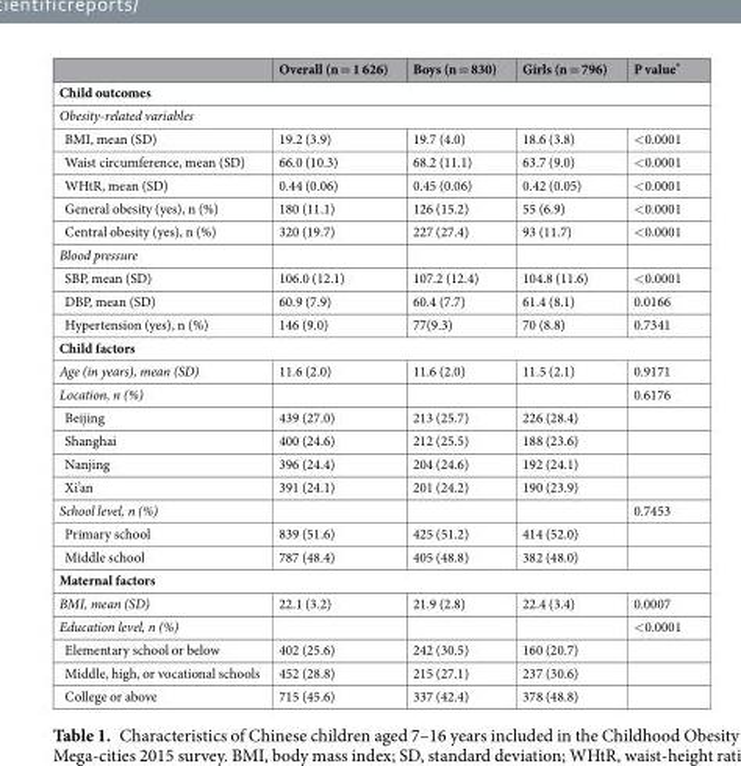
<table><thead><tr><td></td><td>Overall (n = 1 626)</td><td>Boys (n = 830)</td><td>Girls (n = 796)</td><td>P value*</td></tr></thead><tbody><tr><td colspan="5">Child outcomes</td></tr><tr><td colspan="5">Obesity-related variables</td></tr><tr><td>BMI, mean (SD)</td><td>19.2 (3.9)</td><td>19.7 (4.0)</td><td>18.6 (3.8)</td><td>&lt;0.0001</td></tr><tr><td>Waist circumference, mean (SD)</td><td>66.0 (10.3)</td><td>68.2 (11.1)</td><td>63.7 (9.0)</td><td>&lt;0.0001</td></tr><tr><td>WHtR, mean (SD)</td><td>0.44 (0.06)</td><td>0.45 (0.06)</td><td>0.42 (0.05)</td><td>&lt;0.0001</td></tr><tr><td>General obesity (yes), n (%)</td><td>180 (11.1)</td><td>126 (15.2)</td><td>55 (6.9)</td><td>&lt;0.0001</td></tr><tr><td>Central obesity (yes), n (%)</td><td>320 (19.7)</td><td>227 (27.4)</td><td>93 (11.7)</td><td>&lt;0.0001</td></tr><tr><td colspan="5">Blood pressure</td></tr><tr><td>SBP, mean (SD)</td><td>106.0 (12.1)</td><td>107.2 (12.4)</td><td>104.8 (11.6)</td><td>&lt;0.0001</td></tr><tr><td>DBP, mean (SD)</td><td>60.9 (7.9)</td><td>60.4 (7.7)</td><td>61.4 (8.1)</td><td>0.0166</td></tr><tr><td>Hypertension (yes), n (%)</td><td>146 (9.0)</td><td>77(9.3)</td><td>70 (8.8)</td><td>0.7341</td></tr><tr><td colspan="5">Child factors</td></tr><tr><td>Age (in years), mean (SD)</td><td>11.6 (2.0)</td><td>11.6 (2.0)</td><td>11.5 (2.1)</td><td>0.9171</td></tr><tr><td>Location, n (%)</td><td></td><td></td><td></td><td>0.6176</td></tr><tr><td>Beijing</td><td>439 (27.0)</td><td>213 (25.7)</td><td>226 (28.4)</td><td></td></tr><tr><td>Shanghai</td><td>400 (24.6)</td><td>212 (25.5)</td><td>188 (23.6)</td><td></td></tr><tr><td>Nanjing</td><td>396 (24.4)</td><td>204 (24.6)</td><td>192 (24.1)</td><td></td></tr><tr><td>Xi’an</td><td>391 (24.1)</td><td>201 (24.2)</td><td>190 (23.9)</td><td></td></tr><tr><td>School level, n (%)</td><td></td><td></td><td></td><td>0.7453</td></tr><tr><td>Primary school</td><td>839 (51.6)</td><td>425 (51.2)</td><td>414 (52.0)</td><td></td></tr><tr><td>Middle school</td><td>787 (48.4)</td><td>405 (48.8)</td><td>382 (48.0)</td><td></td></tr><tr><td colspan="5">Maternal factors</td></tr><tr><td>BMI, mean (SD)</td><td>22.1 (3.2)</td><td>21.9 (2.8)</td><td>22.4 (3.4)</td><td>0.0007</td></tr><tr><td>Education level, n (%)</td><td></td><td></td><td></td><td>&lt;0.0001</td></tr><tr><td>Elementary school or below</td><td>402 (25.6)</td><td>242 (30.5)</td><td>160 (20.7)</td><td></td></tr><tr><td>Middle, high, or vocational schools</td><td>452 (28.8)</td><td>215 (27.1)</td><td>237 (30.6)</td><td></td></tr><tr><td>College or above</td><td>715 (45.6)</td><td>337 (42.4)</td><td>378 (48.8)</td><td></td></tr></tbody></table>